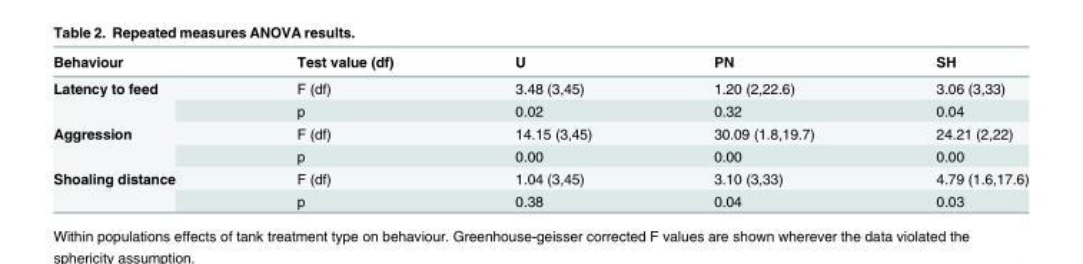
<table><thead><tr><td>Behaviour</td><td>Test value (df)</td><td>U</td><td>PN</td><td>SH</td></tr></thead><tbody><tr><td rowspan="2">Latency to feed</td><td>F (df)</td><td>3.48 (3,45)</td><td>1.20 (2,22.6)</td><td>3.06 (3,33)</td></tr><tr><td>p</td><td>0.02</td><td>0.32</td><td>0.04</td></tr><tr><td rowspan="2">Aggression</td><td>F (df)</td><td>14.15 (3,45)</td><td>30.09 (1.8,19.7)</td><td>24.21 (2,22)</td></tr><tr><td>p</td><td>0.00</td><td>0.00</td><td>0.00</td></tr><tr><td rowspan="2">Shoaling distance</td><td>F (df)</td><td>1.04 (3,45)</td><td>3.10 (3,33)</td><td>4.79 (1.6,17.6)</td></tr><tr><td>p</td><td>0.38</td><td>0.04</td><td>0.03</td></tr></tbody></table>